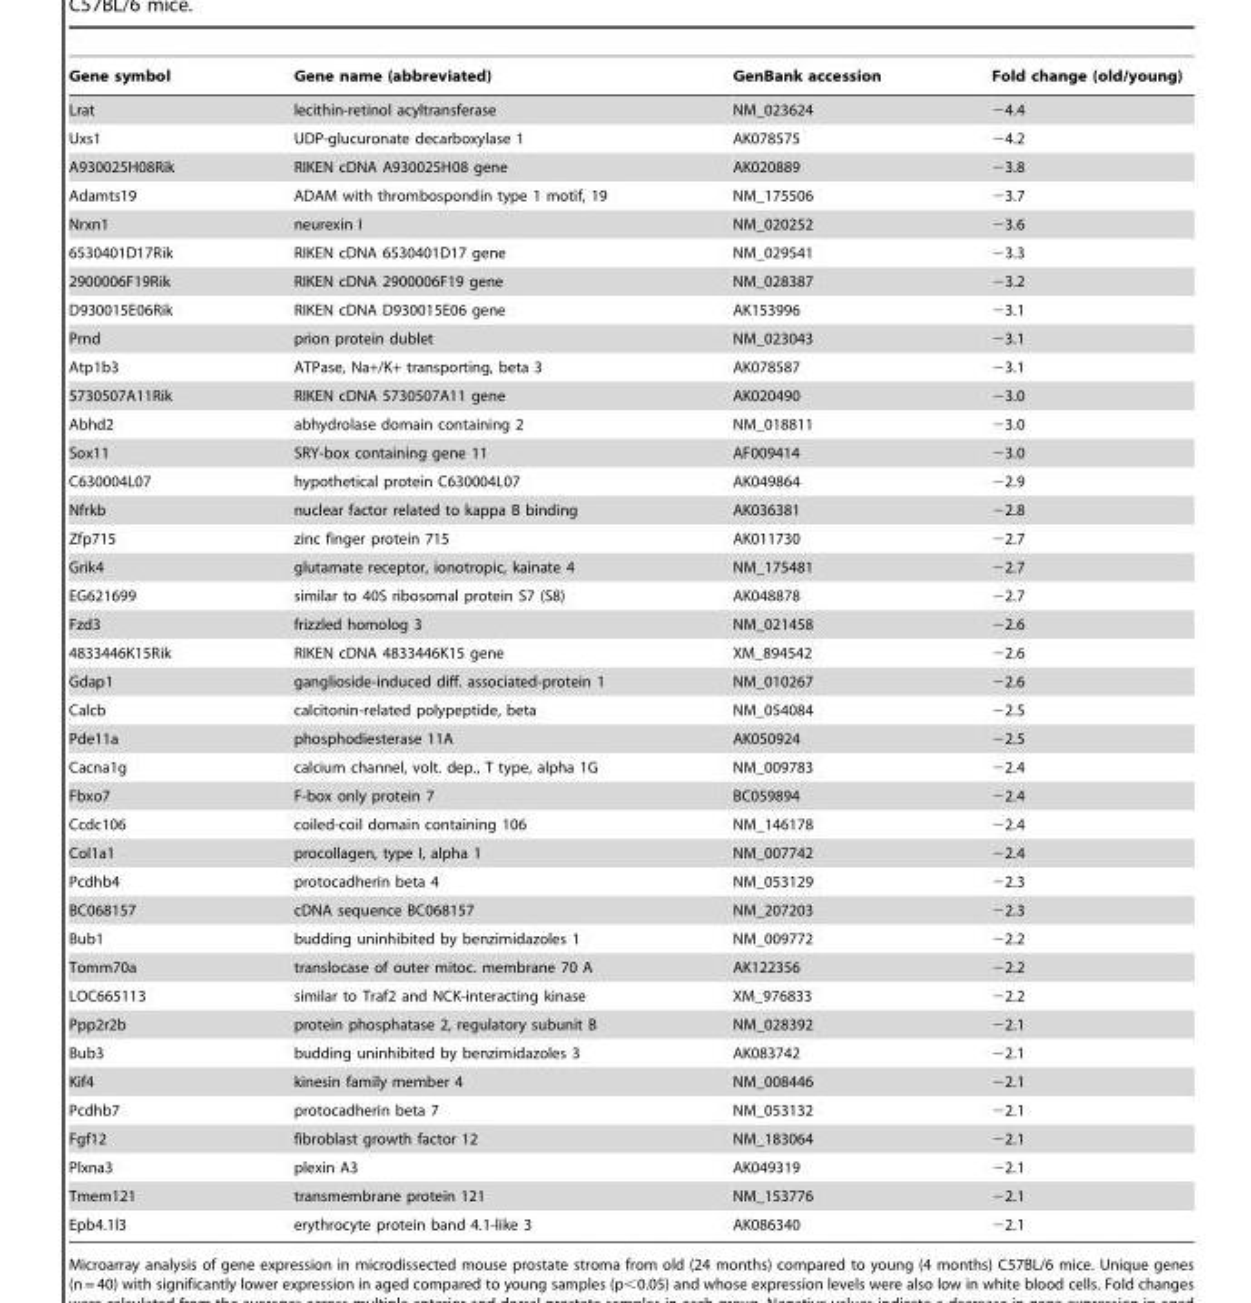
<table><thead><tr><td>Gene symbol</td><td>Gene name (abbreviated)</td><td>GenBank accession</td><td>Fold change (old/young)</td></tr></thead><tbody><tr><td>Lrat</td><td>lecithin-retinol acyltransferase</td><td>NM_023624</td><td>−4.4</td></tr><tr><td>Uxs1</td><td>UDP-glucuronate decarboxylase 1</td><td>AK078575</td><td>−4.2</td></tr><tr><td>A930025H08Rik</td><td>RIKEN cDNA A930025H08 gene</td><td>AK020889</td><td>−3.8</td></tr><tr><td>Adamts19</td><td>ADAM with thrombospondin type 1 motif, 19</td><td>NM_175506</td><td>−3.7</td></tr><tr><td>Nrxn1</td><td>neurexin I</td><td>NM_020252</td><td>−3.6</td></tr><tr><td>6530401D17Rik</td><td>RIKEN cDNA 6530401D17 gene</td><td>NM_029541</td><td>−3.3</td></tr><tr><td>2900006F19Rik</td><td>RIKEN cDNA 2900006F19 gene</td><td>NM_028387</td><td>−3.2</td></tr><tr><td>D930015E06Rik</td><td>RIKEN cDNA D930015E06 gene</td><td>AK153996</td><td>−3.1</td></tr><tr><td>Prnd</td><td>prion protein dublet</td><td>NM_023043</td><td>−3.1</td></tr><tr><td>Atp1b3</td><td>ATPase, Na+/K+ transporting, beta 3</td><td>AK078587</td><td>−3.1</td></tr><tr><td>5730507A11Rik</td><td>RIKEN cDNA 5730507A11 gene</td><td>AK020490</td><td>−3.0</td></tr><tr><td>Abhd2</td><td>abhydrolase domain containing 2</td><td>NM_018811</td><td>−3.0</td></tr><tr><td>Sox11</td><td>SRY-box containing gene 11</td><td>AF009414</td><td>−3.0</td></tr><tr><td>C630004L07</td><td>hypothetical protein C630004L07</td><td>AK049864</td><td>−2.9</td></tr><tr><td>Nfrkb</td><td>nuclear factor related to kappa B binding</td><td>AK036381</td><td>−2.8</td></tr><tr><td>Zfp715</td><td>zinc finger protein 715</td><td>AK011730</td><td>−2.7</td></tr><tr><td>Grik4</td><td>glutamate receptor, ionotropic, kainate 4</td><td>NM_175481</td><td>−2.7</td></tr><tr><td>EG621699</td><td>similar to 40S ribosomal protein S7 (S8)</td><td>AK048878</td><td>−2.7</td></tr><tr><td>Fzd3</td><td>frizzled homolog 3</td><td>NM_021458</td><td>−2.6</td></tr><tr><td>4833446K15Rik</td><td>RIKEN cDNA 4833446K15 gene</td><td>XM_894542</td><td>−2.6</td></tr><tr><td>Gdap1</td><td>ganglioside-induced diff. associated-protein 1</td><td>NM_010267</td><td>−2.6</td></tr><tr><td>Calcb</td><td>calcitonin-related polypeptide, beta</td><td>NM_054084</td><td>−2.5</td></tr><tr><td>Pde11a</td><td>phosphodiesterase 11A</td><td>AK050924</td><td>−2.5</td></tr><tr><td>Cacna1g</td><td>calcium channel, volt. dep., T type, alpha 1G</td><td>NM_009783</td><td>−2.4</td></tr><tr><td>Fbxo7</td><td>F-box only protein 7</td><td>BC059894</td><td>−2.4</td></tr><tr><td>Ccdc106</td><td>coiled-coil domain containing 106</td><td>NM_146178</td><td>−2.4</td></tr><tr><td>Col1a1</td><td>procollagen, type I, alpha 1</td><td>NM_007742</td><td>−2.4</td></tr><tr><td>Pcdhb4</td><td>protocadherin beta 4</td><td>NM_053129</td><td>−2.3</td></tr><tr><td>BC068157</td><td>cDNA sequence BC068157</td><td>NM_207203</td><td>−2.3</td></tr><tr><td>Bub1</td><td>budding uninhibited by benzimidazoles 1</td><td>NM_009772</td><td>−2.2</td></tr><tr><td>Tomm70a</td><td>translocase of outer mitoc. membrane 70 A</td><td>AK122356</td><td>−2.2</td></tr><tr><td>LOC665113</td><td>similar to Traf2 and NCK-interacting kinase</td><td>XM_976833</td><td>−2.2</td></tr><tr><td>Ppp2r2b</td><td>protein phosphatase 2, regulatory subunit B</td><td>NM_028392</td><td>−2.1</td></tr><tr><td>Bub3</td><td>budding uninhibited by benzimidazoles 3</td><td>AK083742</td><td>−2.1</td></tr><tr><td>Kif4</td><td>kinesin family member 4</td><td>NM_008446</td><td>−2.1</td></tr><tr><td>Pcdhb7</td><td>protocadherin beta 7</td><td>NM_053132</td><td>−2.1</td></tr><tr><td>Fgf12</td><td>fibroblast growth factor 12</td><td>NM_183064</td><td>−2.1</td></tr><tr><td>Plxna3</td><td>plexin A3</td><td>AK049319</td><td>−2.1</td></tr><tr><td>Tmem121</td><td>transmembrane protein 121</td><td>NM_153776</td><td>−2.1</td></tr><tr><td>Epb4.1l3</td><td>erythrocyte protein band 4.1-like 3</td><td>AK086340</td><td>−2.1</td></tr></tbody></table>